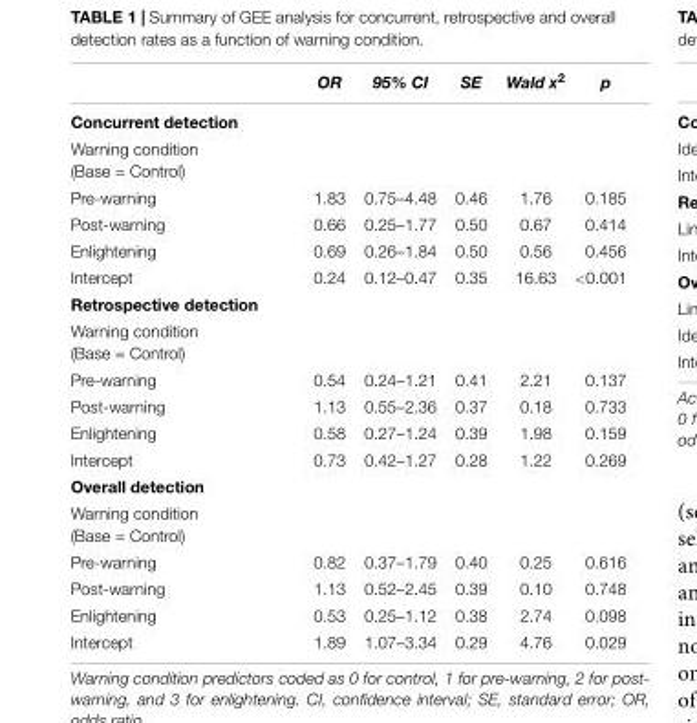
<table><thead><tr><td></td><td>OR</td><td>95% CI</td><td>SE</td><td>Wald x<sup>2</sup></td><td>p</td></tr></thead><tbody><tr><td colspan="6">Concurrent detection</td></tr><tr><td colspan="6">Warning condition (Base = Control)</td></tr><tr><td>Pre-warning</td><td>1.83</td><td>0.75–4.48</td><td>0.46</td><td>1.76</td><td>0.185</td></tr><tr><td>Post-warning</td><td>0.66</td><td>0.25–1.77</td><td>0.50</td><td>0.67</td><td>0.414</td></tr><tr><td>Enlightening</td><td>0.69</td><td>0.26–1.84</td><td>0.50</td><td>0.56</td><td>0.456</td></tr><tr><td>Intercept</td><td>0.24</td><td>0.12–0.47</td><td>0.35</td><td>16.63</td><td>&lt;0.001</td></tr><tr><td colspan="6">Retrospective detection</td></tr><tr><td colspan="6">Warning condition (Base = Control)</td></tr><tr><td>Pre-warning</td><td>0.54</td><td>0.24–1.21</td><td>0.41</td><td>2.21</td><td>0.137</td></tr><tr><td>Post-warning</td><td>1.13</td><td>0.55–2.36</td><td>0.37</td><td>0.18</td><td>0.733</td></tr><tr><td>Enlightening</td><td>0.58</td><td>0.27–1.24</td><td>0.39</td><td>1.98</td><td>0.159</td></tr><tr><td>Intercept</td><td>0.73</td><td>0.42–1.27</td><td>0.28</td><td>1.22</td><td>0.269</td></tr><tr><td colspan="6">Overall detection</td></tr><tr><td colspan="6">Warning condition (Base = Control)</td></tr><tr><td>Pre-warning</td><td>0.82</td><td>0.37–1.79</td><td>0.40</td><td>0.25</td><td>0.616</td></tr><tr><td>Post-warning</td><td>1.13</td><td>0.52–2.45</td><td>0.39</td><td>0.10</td><td>0.748</td></tr><tr><td>Enlightening</td><td>0.53</td><td>0.25–1.12</td><td>0.38</td><td>2.74</td><td>0.098</td></tr><tr><td>Intercept</td><td>1.89</td><td>1.07–3.34</td><td>0.29</td><td>4.76</td><td>0.029</td></tr></tbody></table>